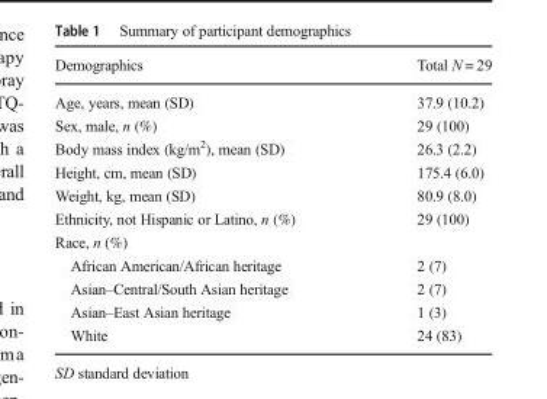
<table><thead><tr><td>Demographics</td><td>Total N = 29</td></tr></thead><tbody><tr><td>Age, years, mean (SD)</td><td>37.9 (10.2)</td></tr><tr><td>Sex, male, n (%)</td><td>29 (100)</td></tr><tr><td>Body mass index (kg/m<sup>2</sup>), mean (SD)</td><td>26.3 (2.2)</td></tr><tr><td>Height, cm, mean (SD)</td><td>175.4 (6.0)</td></tr><tr><td>Weight, kg, mean (SD)</td><td>80.9 (8.0)</td></tr><tr><td>Ethnicity, not Hispanic or Latino, n (%)</td><td>29 (100)</td></tr><tr><td colspan="2">Race, n (%)</td></tr><tr><td>African American/African heritage</td><td>2 (7)</td></tr><tr><td>Asian–Central/South Asian heritage</td><td>2 (7)</td></tr><tr><td>Asian–East Asian heritage</td><td>1 (3)</td></tr><tr><td>White</td><td>24 (83)</td></tr></tbody></table>